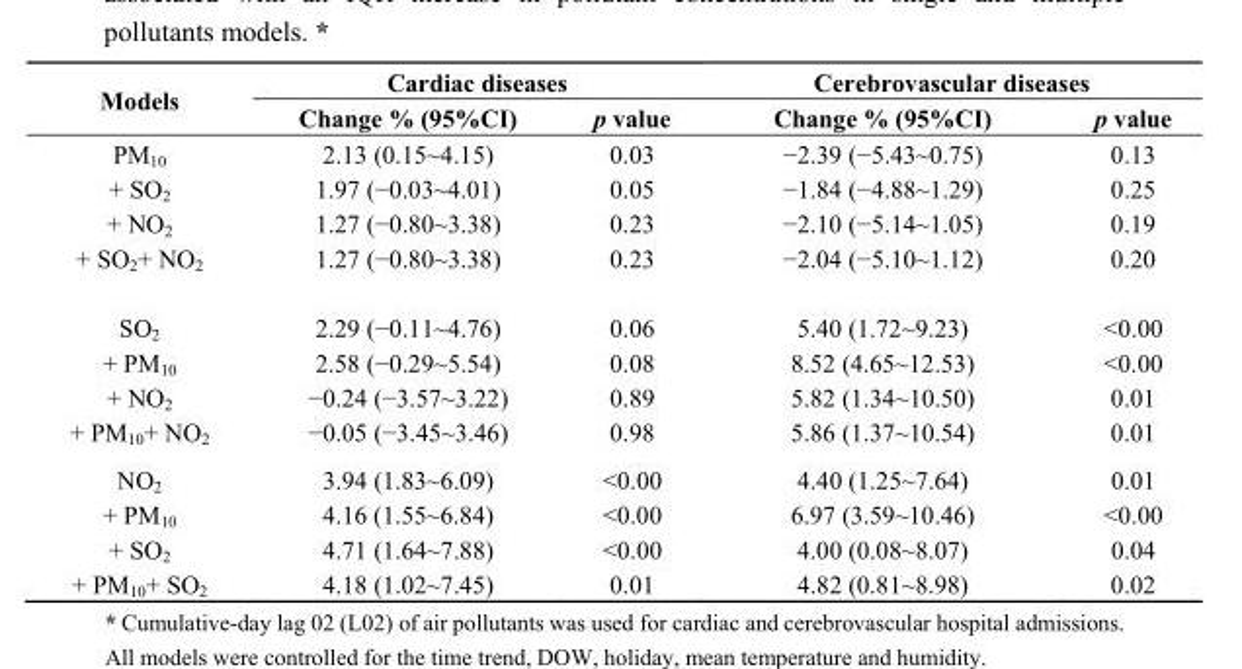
<table><thead><tr><td rowspan="2">Models</td><td colspan="2">Cardiac diseases</td><td colspan="2">Cerebrovascular diseases</td></tr><tr><td>Change % (95%CI)</td><td>p value</td><td>Change % (95%CI)</td><td>p value</td></tr></thead><tbody><tr><td>PM<sub>10</sub></td><td>2.13 (0.15~4.15)</td><td>0.03</td><td>−2.39 (−5.43~0.75)</td><td>0.13</td></tr><tr><td>+ SO<sub>2</sub></td><td>1.97 (−0.03~4.01)</td><td>0.05</td><td>−1.84 (−4.88~1.29)</td><td>0.25</td></tr><tr><td>+ NO<sub>2</sub></td><td>1.27 (−0.80~3.38)</td><td>0.23</td><td>−2.10 (−5.14~1.05)</td><td>0.19</td></tr><tr><td>+ SO<sub>2</sub>+ NO<sub>2</sub></td><td>1.27 (−0.80~3.38)</td><td>0.23</td><td>−2.04 (−5.10~1.12)</td><td>0.20</td></tr><tr><td>SO<sub>2</sub></td><td>2.29 (−0.11~4.76)</td><td>0.06</td><td>5.40 (1.72~9.23)</td><td>&lt;0.00</td></tr><tr><td>+ PM<sub>10</sub></td><td>2.58 (−0.29~5.54)</td><td>0.08</td><td>8.52 (4.65~12.53)</td><td>&lt;0.00</td></tr><tr><td>+ NO<sub>2</sub></td><td>−0.24 (−3.57~3.22)</td><td>0.89</td><td>5.82 (1.34~10.50)</td><td>0.01</td></tr><tr><td>+ PM<sub>10</sub>+ NO<sub>2</sub></td><td>−0.05 (−3.45~3.46)</td><td>0.98</td><td>5.86 (1.37~10.54)</td><td>0.01</td></tr><tr><td>NO<sub>2</sub></td><td>3.94 (1.83~6.09)</td><td>&lt;0.00</td><td>4.40 (1.25~7.64)</td><td>0.01</td></tr><tr><td>+ PM<sub>10</sub></td><td>4.16 (1.55~6.84)</td><td>&lt;0.00</td><td>6.97 (3.59~10.46)</td><td>&lt;0.00</td></tr><tr><td>+ SO<sub>2</sub></td><td>4.71 (1.64~7.88)</td><td>&lt;0.00</td><td>4.00 (0.08~8.07)</td><td>0.04</td></tr><tr><td>+ PM<sub>10</sub>+ SO<sub>2</sub></td><td>4.18 (1.02~7.45)</td><td>0.01</td><td>4.82 (0.81~8.98)</td><td>0.02</td></tr></tbody></table>